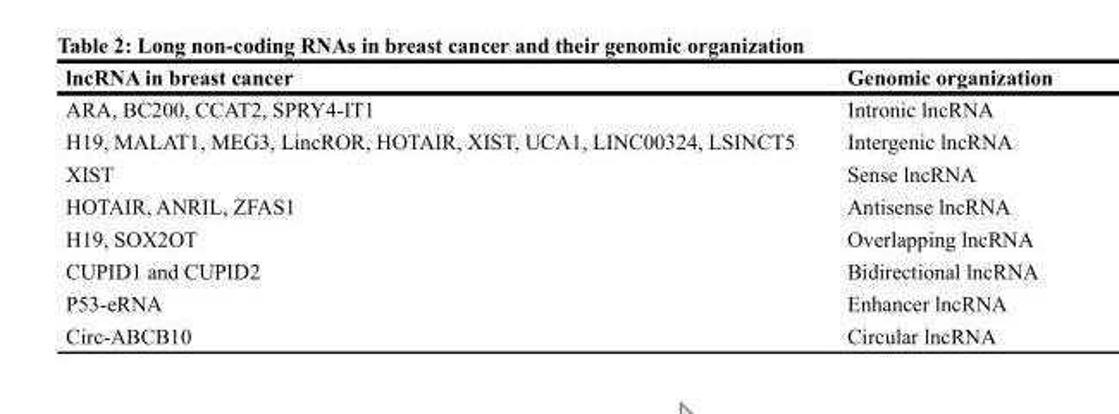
<table><thead><tr><td>lncRNA in breast cancer</td><td>Genomic organization</td></tr></thead><tbody><tr><td>ARA, BC200, CCAT2, SPRY4-IT1</td><td>Intronic lncRNA</td></tr><tr><td>H19, MALAT1, MEG3, LincROR, HOTAIR, XIST, UCA1, LINC00324, LSINCT5</td><td>Intergenic lncRNA</td></tr><tr><td>XIST</td><td>Sense lncRNA</td></tr><tr><td>HOTAIR, ANRIL, ZFAS1</td><td>Antisense lncRNA</td></tr><tr><td>H19, SOX2OT</td><td>Overlapping lncRNA</td></tr><tr><td>CUPID1 and CUPID2</td><td>Bidirectional lncRNA</td></tr><tr><td>P53-eRNA</td><td>Enhancer lncRNA</td></tr><tr><td>Circ-ABCB10</td><td>Circular lncRNA</td></tr></tbody></table>